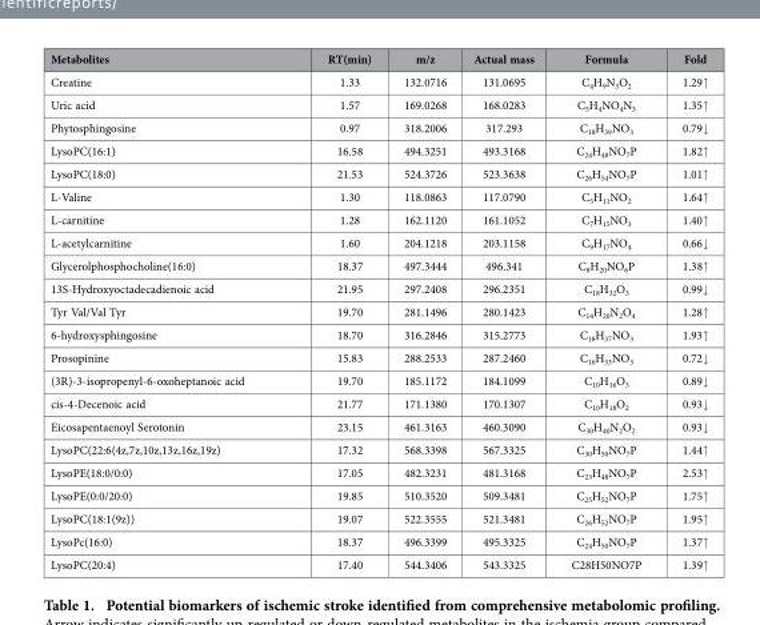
<table><thead><tr><td>Metabolites</td><td>RT(min)</td><td>m/z</td><td>Actual mass</td><td>Formula</td><td>Fold</td></tr></thead><tbody><tr><td>Creatine</td><td>1.33</td><td>132.0716</td><td>131.0695</td><td>C<sub>4</sub>H<sub>9</sub>N<sub>3</sub>O<sub>2</sub></td><td>1.29↑</td></tr><tr><td>Uric acid</td><td>1.57</td><td>169.0268</td><td>168.0283</td><td>C<sub>5</sub>H<sub>4</sub>NO<sub>4</sub>N<sub>3</sub></td><td>1.35↑</td></tr><tr><td>Phytosphingosine</td><td>0.97</td><td>318.2006</td><td>317.293</td><td>C<sub>18</sub>H<sub>39</sub>NO<sub>3</sub></td><td>0.79↓</td></tr><tr><td>LysoPC(16:1)</td><td>16.58</td><td>494.3251</td><td>493.3168</td><td>C<sub>24</sub>H<sub>48</sub>NO<sub>7</sub>P</td><td>1.82↑</td></tr><tr><td>LysoPC(18:0)</td><td>21.53</td><td>524.3726</td><td>523.3638</td><td>C<sub>26</sub>H<sub>54</sub>NO<sub>7</sub>P</td><td>1.01↑</td></tr><tr><td>L-Valine</td><td>1.30</td><td>118.0863</td><td>117.0790</td><td>C<sub>5</sub>H<sub>11</sub>NO<sub>2</sub></td><td>1.64↑</td></tr><tr><td>L-carnitine</td><td>1.28</td><td>162.1120</td><td>161.1052</td><td>C<sub>7</sub>H<sub>15</sub>NO<sub>3</sub></td><td>1.40↑</td></tr><tr><td>L-acetylcarnitine</td><td>1.60</td><td>204.1218</td><td>203.1158</td><td>C<sub>9</sub>H<sub>17</sub>NO<sub>4</sub></td><td>0.66↓</td></tr><tr><td>Glycerolphosphocholine(16:0)</td><td>18.37</td><td>497.3444</td><td>496.341</td><td>C<sub>8</sub>H<sub>20</sub>NO<sub>6</sub>P</td><td>1.38↑</td></tr><tr><td>13S-Hydroxyoctadecadienoic acid</td><td>21.95</td><td>297.2408</td><td>296.2351</td><td>C<sub>18</sub>H<sub>32</sub>O<sub>3</sub></td><td>0.99↓</td></tr><tr><td>Tyr Val/Val Tyr</td><td>19.70</td><td>281.1496</td><td>280.1423</td><td>C<sub>14</sub>H<sub>20</sub>N<sub>2</sub>O<sub>4</sub></td><td>1.28↑</td></tr><tr><td>6-hydroxysphingosine</td><td>18.70</td><td>316.2846</td><td>315.2773</td><td>C<sub>18</sub>H<sub>37</sub>NO<sub>3</sub></td><td>1.93↑</td></tr><tr><td>Prosopinine</td><td>15.83</td><td>288.2533</td><td>287.2460</td><td>C<sub>16</sub>H<sub>33</sub>NO<sub>3</sub></td><td>0.72↓</td></tr><tr><td>(3R)-3-isopropenyl-6-oxoheptanoic acid</td><td>19.70</td><td>185.1172</td><td>184.1099</td><td>C<sub>10</sub>H<sub>16</sub>O<sub>3</sub></td><td>0.89↓</td></tr><tr><td>cis-4-Decenoic acid</td><td>21.77</td><td>171.1380</td><td>170.1307</td><td>C<sub>10</sub>H<sub>18</sub>O<sub>2</sub></td><td>0.93↓</td></tr><tr><td>Eicosapentaenoyl Serotonin</td><td>23.15</td><td>461.3163</td><td>460.3090</td><td>C<sub>30</sub>H<sub>40</sub>N<sub>2</sub>O<sub>2</sub></td><td>0.93↓</td></tr><tr><td>LysoPC(22:6(4z,7z,10z,13z,16z,19z)</td><td>17.32</td><td>568.3398</td><td>567.3325</td><td>C<sub>30</sub>H<sub>50</sub>NO<sub>7</sub>P</td><td>1.44↑</td></tr><tr><td>LysoPE(18:0/0:0)</td><td>17.05</td><td>482.3231</td><td>481.3168</td><td>C<sub>23</sub>H<sub>48</sub>NO<sub>7</sub>P</td><td>2.53↑</td></tr><tr><td>LysoPE(0:0/20:0)</td><td>19.85</td><td>510.3520</td><td>509.3481</td><td>C<sub>25</sub>H<sub>52</sub>NO<sub>7</sub>P</td><td>1.75↑</td></tr><tr><td>LysoPC(18:1(9z))</td><td>19.07</td><td>522.3555</td><td>521.3481</td><td>C<sub>26</sub>H<sub>52</sub>NO<sub>7</sub>P</td><td>1.95↑</td></tr><tr><td>LysoPc(16:0)</td><td>18.37</td><td>496.3399</td><td>495.3325</td><td>C<sub>24</sub>H<sub>50</sub>NO<sub>7</sub>P</td><td>1.37↑</td></tr><tr><td>LysoPC(20:4)</td><td>17.40</td><td>544.3406</td><td>543.3325</td><td>C28H50NO7P</td><td>1.39↑</td></tr></tbody></table>